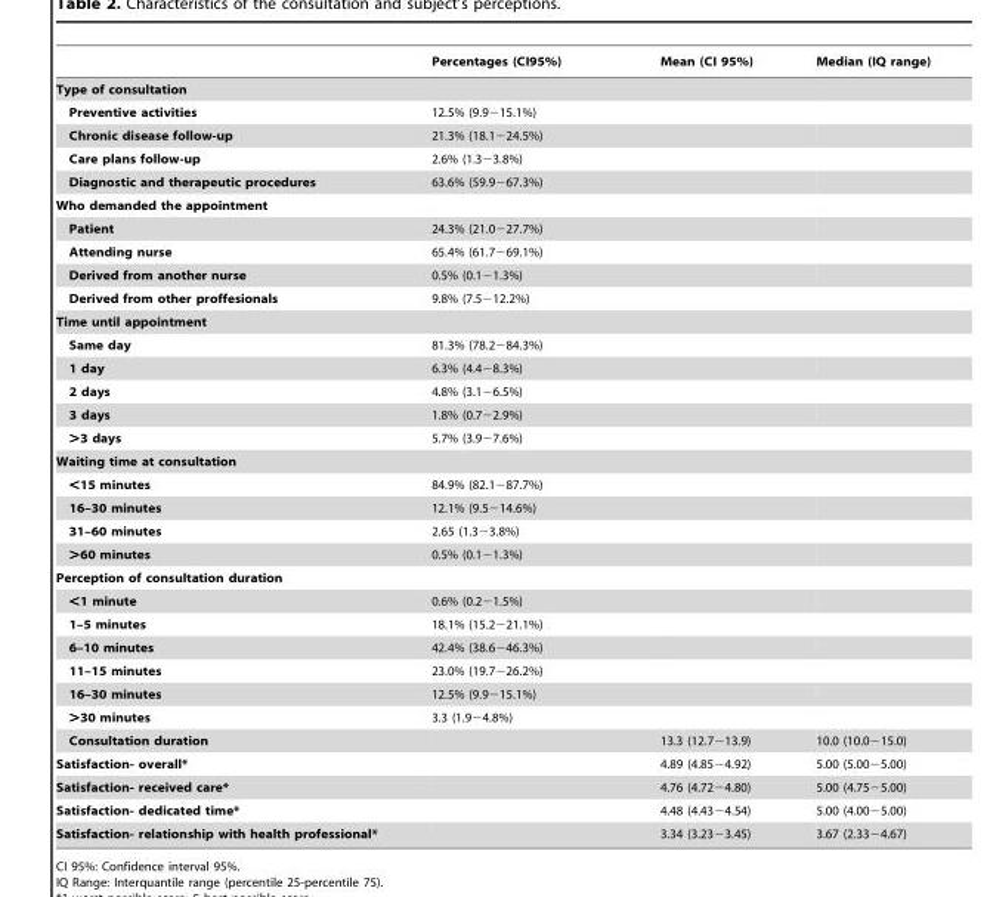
<table><thead><tr><td></td><td>Percentages (CI95%)</td><td>Mean (CI 95%)</td><td>Median (IQ range)</td></tr></thead><tbody><tr><td colspan="4">Type of consultation</td></tr><tr><td>Preventive activities</td><td>12.5% (9.9−15.1%)</td><td></td><td></td></tr><tr><td>Chronic disease follow-up</td><td>21.3% (18.1−24.5%)</td><td></td><td></td></tr><tr><td>Care plans follow-up</td><td>2.6% (1.3−3.8%)</td><td></td><td></td></tr><tr><td>Diagnostic and therapeutic procedures</td><td>63.6% (59.9−67.3%)</td><td></td><td></td></tr><tr><td colspan="4">Who demanded the appointment</td></tr><tr><td>Patient</td><td>24.3% (21.0−27.7%)</td><td></td><td></td></tr><tr><td>Attending nurse</td><td>65.4% (61.7−69.1%)</td><td></td><td></td></tr><tr><td>Derived from another nurse</td><td>0.5% (0.1−1.3%)</td><td></td><td></td></tr><tr><td>Derived from other proffesionals</td><td>9.8% (7.5−12.2%)</td><td></td><td></td></tr><tr><td colspan="4">Time until appointment</td></tr><tr><td>Same day</td><td>81.3% (78.2−84.3%)</td><td></td><td></td></tr><tr><td>1 day</td><td>6.3% (4.4−8.3%)</td><td></td><td></td></tr><tr><td>2 days</td><td>4.8% (3.1−6.5%)</td><td></td><td></td></tr><tr><td>3 days</td><td>1.8% (0.7−2.9%)</td><td></td><td></td></tr><tr><td>&gt;3 days</td><td>5.7% (3.9−7.6%)</td><td></td><td></td></tr><tr><td colspan="4">Waiting time at consultation</td></tr><tr><td>&lt;15 minutes</td><td>84.9% (82.1−87.7%)</td><td></td><td></td></tr><tr><td>16–30 minutes</td><td>12.1% (9.5−14.6%)</td><td></td><td></td></tr><tr><td>31–60 minutes</td><td>2.65 (1.3−3.8%)</td><td></td><td></td></tr><tr><td>&gt;60 minutes</td><td>0.5% (0.1−1.3%)</td><td></td><td></td></tr><tr><td colspan="4">Perception of consultation duration</td></tr><tr><td>&lt;1 minute</td><td>0.6% (0.2−1.5%)</td><td></td><td></td></tr><tr><td>1–5 minutes</td><td>18.1% (15.2−21.1%)</td><td></td><td></td></tr><tr><td>6–10 minutes</td><td>42.4% (38.6−46.3%)</td><td></td><td></td></tr><tr><td>11–15 minutes</td><td>23.0% (19.7−26.2%)</td><td></td><td></td></tr><tr><td>16–30 minutes</td><td>12.5% (9.9−15.1%)</td><td></td><td></td></tr><tr><td>&gt;30 minutes</td><td>3.3 (1.9−4.8%)</td><td></td><td></td></tr><tr><td>Consultation duration</td><td></td><td>13.3 (12.7−13.9)</td><td>10.0 (10.0−15.0)</td></tr><tr><td>Satisfaction- overall*</td><td></td><td>4.89 (4.85−4.92)</td><td>5.00 (5.00−5.00)</td></tr><tr><td>Satisfaction- received care*</td><td></td><td>4.76 (4.72−4.80)</td><td>5.00 (4.75−5.00)</td></tr><tr><td>Satisfaction- dedicated time*</td><td></td><td>4.48 (4.43−4.54)</td><td>5.00 (4.00−5.00)</td></tr><tr><td>Satisfaction- relationship with health professional*</td><td></td><td>3.34 (3.23−3.45)</td><td>3.67 (2.33−4.67)</td></tr></tbody></table>